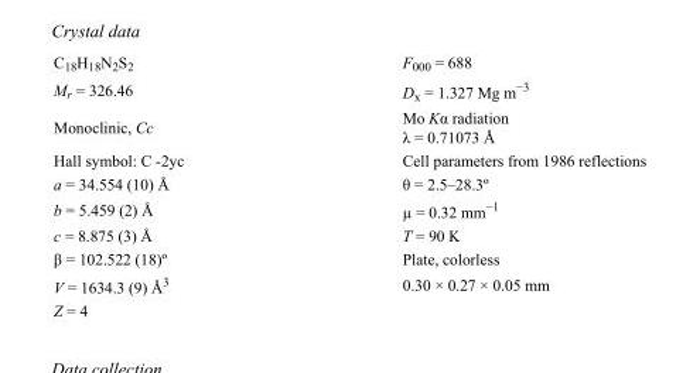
<table><tbody><tr><td>C<sub>18</sub>H<sub>18</sub>N<sub>2</sub>S<sub>2</sub></td><td>F<sub>000</sub> = 688</td></tr><tr><td>M<sub>r</sub> = 326.46</td><td>D<sub>x</sub> = 1.327 Mg m<sup>−3</sup></td></tr><tr><td>Monoclinic, Cc</td><td>Mo Kα radiation λ = 0.71073 Å</td></tr><tr><td>Hall symbol: C -2yc</td><td>Cell parameters from 1986 reflections</td></tr><tr><td>a = 34.554 (10) Å</td><td>θ = 2.5–28.3º</td></tr><tr><td>b = 5.459 (2) Å</td><td>µ = 0.32 mm<sup>−1</sup></td></tr><tr><td>c = 8.875 (3) Å</td><td>T = 90 K</td></tr><tr><td>β = 102.522 (18)º</td><td>Plate, colorless</td></tr><tr><td>V = 1634.3 (9) Å<sup>3</sup></td><td>0.30 × 0.27 × 0.05 mm</td></tr><tr><td>Z = 4</td><td></td></tr></tbody></table>